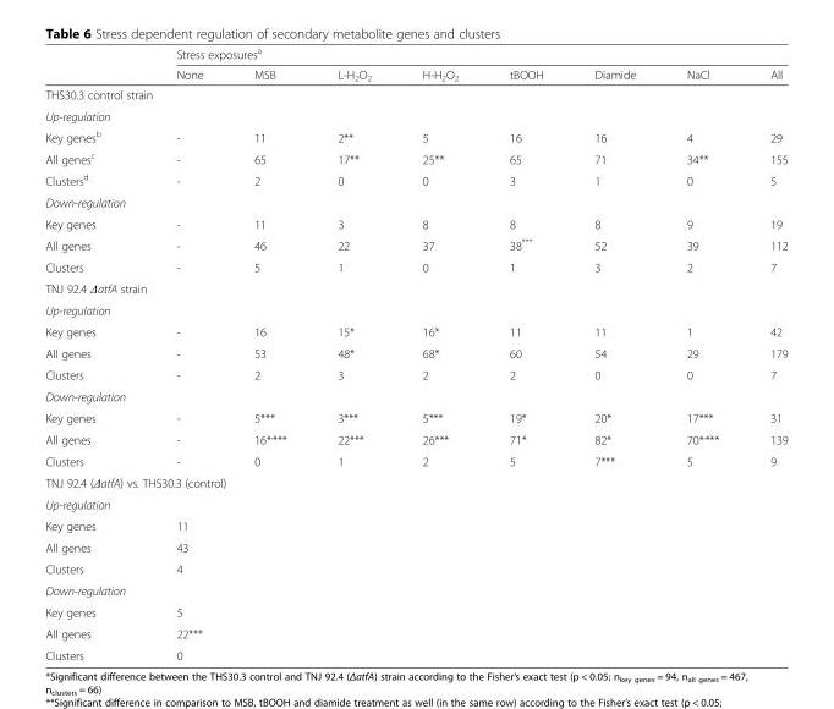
<table><thead><tr><td rowspan="2"></td><td colspan="8">Stress exposures<sup>a</sup></td></tr><tr><td>None</td><td>MSB</td><td>L-H<sub>2</sub>O<sub>2</sub></td><td>H-H<sub>2</sub>O<sub>2</sub></td><td>tBOOH</td><td>Diamide</td><td>NaCl</td><td>All</td></tr></thead><tbody><tr><td colspan="9">THS30.3 control strain</td></tr><tr><td colspan="9">Up-regulation</td></tr><tr><td>Key genes<sup>b</sup></td><td>-</td><td>11</td><td>2**</td><td>5</td><td>16</td><td>16</td><td>4</td><td>29</td></tr><tr><td>All genes<sup>c</sup></td><td>-</td><td>65</td><td>17**</td><td>25**</td><td>65</td><td>71</td><td>34**</td><td>155</td></tr><tr><td>Clusters<sup>d</sup></td><td>-</td><td>2</td><td>0</td><td>0</td><td>3</td><td>1</td><td>0</td><td>5</td></tr><tr><td colspan="9">Down-regulation</td></tr><tr><td>Key genes</td><td>-</td><td>11</td><td>3</td><td>8</td><td>8</td><td>8</td><td>9</td><td>19</td></tr><tr><td>All genes</td><td>-</td><td>46</td><td>22</td><td>37</td><td>38***</td><td>52</td><td>39</td><td>112</td></tr><tr><td>Clusters</td><td>-</td><td>5</td><td>1</td><td>0</td><td>1</td><td>3</td><td>2</td><td>7</td></tr><tr><td colspan="9">TNJ 92.4 ΔatfA strain</td></tr><tr><td colspan="9">Up-regulation</td></tr><tr><td>Key genes</td><td>-</td><td>16</td><td>15*</td><td>16*</td><td>11</td><td>11</td><td>1</td><td>42</td></tr><tr><td>All genes</td><td>-</td><td>53</td><td>48*</td><td>68*</td><td>60</td><td>54</td><td>29</td><td>179</td></tr><tr><td>Clusters</td><td>-</td><td>2</td><td>3</td><td>2</td><td>2</td><td>0</td><td>0</td><td>7</td></tr><tr><td colspan="9">Down-regulation</td></tr><tr><td>Key genes</td><td>-</td><td>5***</td><td>3***</td><td>5***</td><td>19*</td><td>20*</td><td>17***</td><td>31</td></tr><tr><td>All genes</td><td>-</td><td>16*<sup>,</sup>***</td><td>22***</td><td>26***</td><td>71*</td><td>82*</td><td>70*<sup>,</sup>***</td><td>139</td></tr><tr><td>Clusters</td><td>-</td><td>0</td><td>1</td><td>2</td><td>5</td><td>7***</td><td>5</td><td>9</td></tr><tr><td colspan="9">TNJ 92.4 (ΔatfA) vs. THS30.3 (control)</td></tr><tr><td colspan="9">Up-regulation</td></tr><tr><td>Key genes</td><td>11</td><td></td><td></td><td></td><td></td><td></td><td></td><td></td></tr><tr><td>All genes</td><td>43</td><td></td><td></td><td></td><td></td><td></td><td></td><td></td></tr><tr><td>Clusters</td><td>4</td><td></td><td></td><td></td><td></td><td></td><td></td><td></td></tr><tr><td colspan="9">Down-regulation</td></tr><tr><td>Key genes</td><td>5</td><td></td><td></td><td></td><td></td><td></td><td></td><td></td></tr><tr><td>All genes</td><td>22***</td><td></td><td></td><td></td><td></td><td></td><td></td><td></td></tr><tr><td>Clusters</td><td>0</td><td></td><td></td><td></td><td></td><td></td><td></td><td></td></tr></tbody></table>